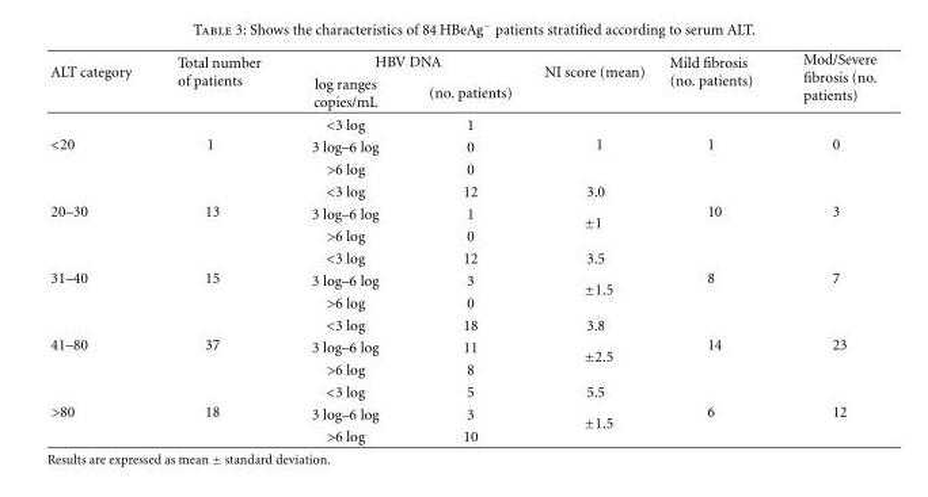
<table><thead><tr><td rowspan="2">ALT category</td><td rowspan="2">Total number of patients</td><td colspan="2">HBV DNA</td><td rowspan="2">NI score (mean)</td><td rowspan="2">Mild fibrosis (no. patients)</td><td rowspan="2">Mod/Severe fibrosis (no. patients)</td></tr><tr><td>log ranges copies/mL</td><td>(no. patients)</td></tr></thead><tbody><tr><td rowspan="3">&lt;20</td><td rowspan="3">1</td><td>&lt;3 log</td><td>1</td><td rowspan="3">1</td><td rowspan="3">1</td><td rowspan="3">0</td></tr><tr><td>3 log–6 log</td><td>0</td></tr><tr><td>&gt;6 log</td><td>0</td></tr><tr><td rowspan="3">20–30</td><td rowspan="3">13</td><td>&lt;3 log</td><td>12</td><td>3.0</td><td rowspan="3">10</td><td rowspan="3">3</td></tr><tr><td>3 log–6 log</td><td>1</td><td rowspan="2">±1</td></tr><tr><td>&gt;6 log</td><td>0</td></tr><tr><td rowspan="3">31–40</td><td rowspan="3">15</td><td>&lt;3 log</td><td>12</td><td>3.5</td><td rowspan="3">8</td><td rowspan="3">7</td></tr><tr><td>3 log–6 log</td><td>3</td><td rowspan="2">±1.5</td></tr><tr><td>&gt;6 log</td><td>0</td></tr><tr><td rowspan="3">41–80</td><td rowspan="3">37</td><td>&lt;3 log</td><td>18</td><td>3.8</td><td rowspan="3">14</td><td rowspan="3">23</td></tr><tr><td>3 log–6 log</td><td>11</td><td rowspan="2">±2.5</td></tr><tr><td>&gt;6 log</td><td>8</td></tr><tr><td rowspan="3">&gt;80</td><td rowspan="3">18</td><td>&lt;3 log</td><td>5</td><td>5.5</td><td rowspan="3">6</td><td rowspan="3">12</td></tr><tr><td>3 log–6 log</td><td>3</td><td rowspan="2">±1.5</td></tr><tr><td>&gt;6 log</td><td>10</td></tr></tbody></table>